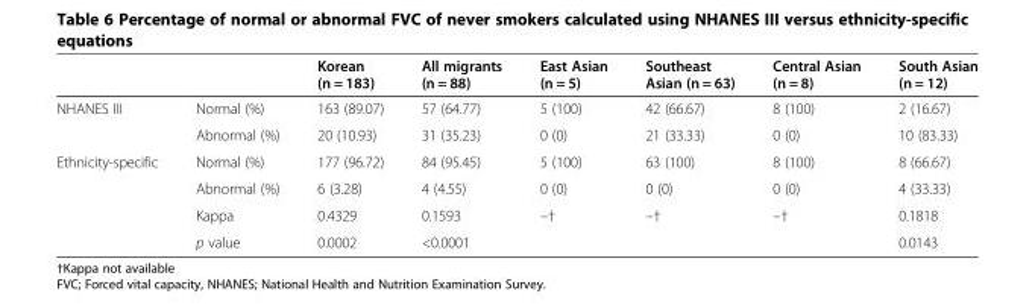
<table><thead><tr><td></td><td></td><td>Korean (n = 183)</td><td>All migrants (n = 88)</td><td>East Asian (n = 5)</td><td>Southeast Asian (n = 63)</td><td>Central Asian (n = 8)</td><td>South Asian (n = 12)</td></tr></thead><tbody><tr><td rowspan="2">NHANES III</td><td>Normal (%)</td><td>163 (89.07)</td><td>57 (64.77)</td><td>5 (100)</td><td>42 (66.67)</td><td>8 (100)</td><td>2 (16.67)</td></tr><tr><td>Abnormal (%)</td><td>20 (10.93)</td><td>31 (35.23)</td><td>0 (0)</td><td>21 (33.33)</td><td>0 (0)</td><td>10 (83.33)</td></tr><tr><td rowspan="4">Ethnicity-specific</td><td>Normal (%)</td><td>177 (96.72)</td><td>84 (95.45)</td><td>5 (100)</td><td>63 (100)</td><td>8 (100)</td><td>8 (66.67)</td></tr><tr><td>Abnormal (%)</td><td>6 (3.28)</td><td>4 (4.55)</td><td>0 (0)</td><td>0 (0)</td><td>0 (0)</td><td>4 (33.33)</td></tr><tr><td>Kappa</td><td>0.4329</td><td>0.1593</td><td>–†</td><td>–†</td><td>–†</td><td>0.1818</td></tr><tr><td>p value</td><td>0.0002</td><td>&lt;0.0001</td><td></td><td></td><td></td><td>0.0143</td></tr></tbody></table>